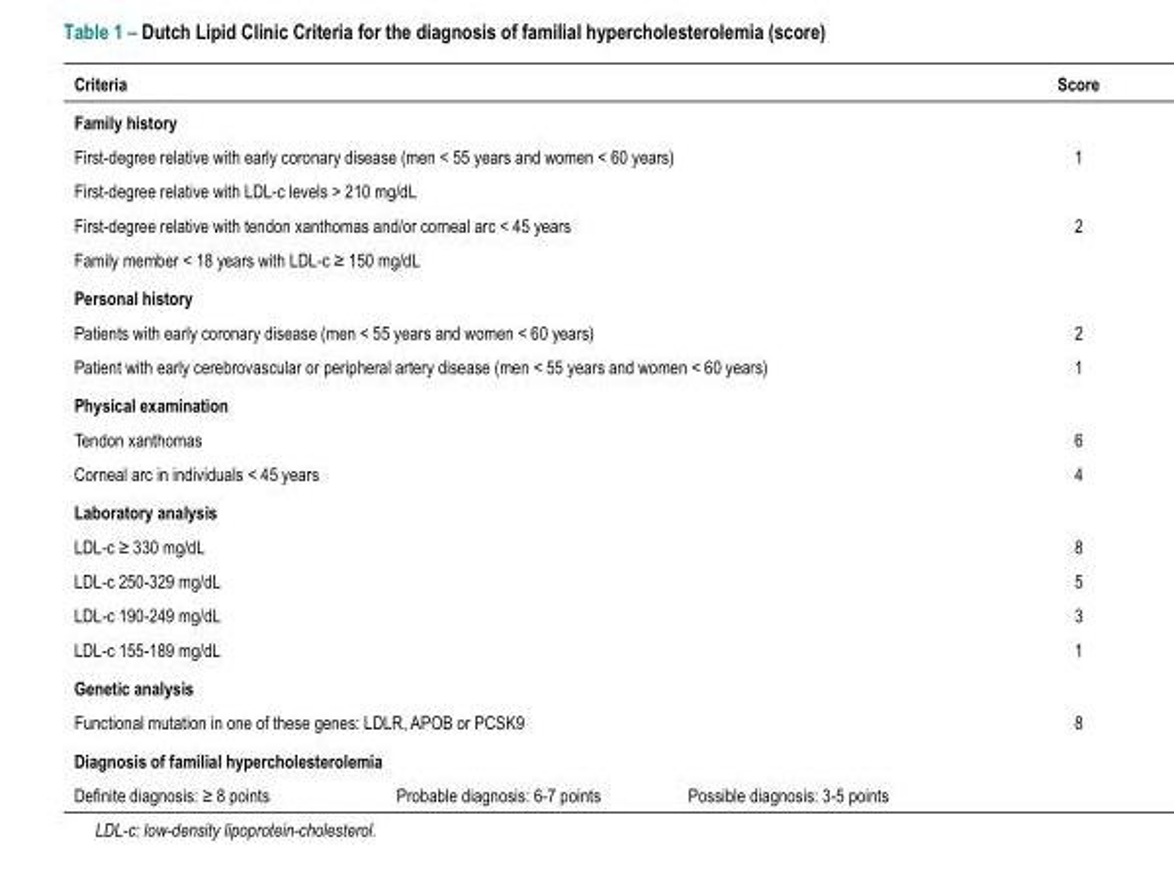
<table><thead><tr><td colspan="3">Criteria</td><td>Score</td></tr></thead><tbody><tr><td colspan="4">Family history</td></tr><tr><td colspan="3">First-degree relative with early coronary disease (men &lt; 55 years and women &lt; 60 years)</td><td>1</td></tr><tr><td colspan="4">First-degree relative with LDL-c levels &gt; 210 mg/dL</td></tr><tr><td colspan="3">First-degree relative with tendon xanthomas and/or corneal arc &lt; 45 years</td><td>2</td></tr><tr><td colspan="4">Family member &lt; 18 years with LDL-c ≥ 150 mg/dL</td></tr><tr><td colspan="4">Personal history</td></tr><tr><td colspan="3">Patients with early coronary disease (men &lt; 55 years and women &lt; 60 years)</td><td>2</td></tr><tr><td colspan="3">Patient with early cerebrovascular or peripheral artery disease (men &lt; 55 years and women &lt; 60 years)</td><td>1</td></tr><tr><td colspan="4">Physical examination</td></tr><tr><td colspan="3">Tendon xanthomas</td><td>6</td></tr><tr><td colspan="3">Corneal arc in individuals &lt; 45 years</td><td>4</td></tr><tr><td colspan="4">Laboratory analysis</td></tr><tr><td colspan="3">LDL-c ≥ 330 mg/dL</td><td>8</td></tr><tr><td colspan="3">LDL-c 250-329 mg/dL</td><td>5</td></tr><tr><td colspan="3">LDL-c 190-249 mg/dL</td><td>3</td></tr><tr><td colspan="3">LDL-c 155-189 mg/dL</td><td>1</td></tr><tr><td colspan="4">Genetic analysis</td></tr><tr><td colspan="3">Functional mutation in one of these genes: LDLR, APOB or PCSK9</td><td>8</td></tr><tr><td colspan="4">Diagnosis of familial hypercholesterolemia</td></tr><tr><td>Definite diagnosis: ≥ 8 points</td><td>Probable diagnosis: 6-7 points</td><td>Possible diagnosis: 3-5 points</td><td></td></tr></tbody></table>